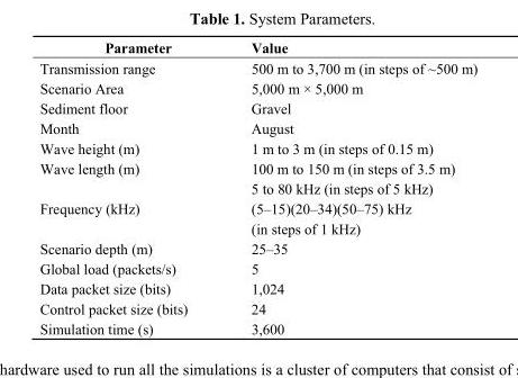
<table><thead><tr><td>Parameter</td><td>Value</td></tr></thead><tbody><tr><td>Transmission range</td><td>500 m to 3,700 m (in steps of ~500 m)</td></tr><tr><td>Scenario Area</td><td>5,000 m × 5,000 m</td></tr><tr><td>Sediment floor</td><td>Gravel</td></tr><tr><td>Month</td><td>August</td></tr><tr><td>Wave height (m)</td><td>1 m to 3 m (in steps of 0.15 m)</td></tr><tr><td>Wave length (m)</td><td>100 m to 150 m (in steps of 3.5 m)</td></tr><tr><td>Frequency (kHz)</td><td>5 to 80 kHz (in steps of 5 kHz) (5–15)(20–34)(50–75) kHz (in steps of 1 kHz)</td></tr><tr><td>Scenario depth (m)</td><td>25–35</td></tr><tr><td>Global load (packets/s)</td><td>5</td></tr><tr><td>Data packet size (bits)</td><td>1,024</td></tr><tr><td>Control packet size (bits)</td><td>24</td></tr><tr><td>Simulation time (s)</td><td>3,600</td></tr></tbody></table>